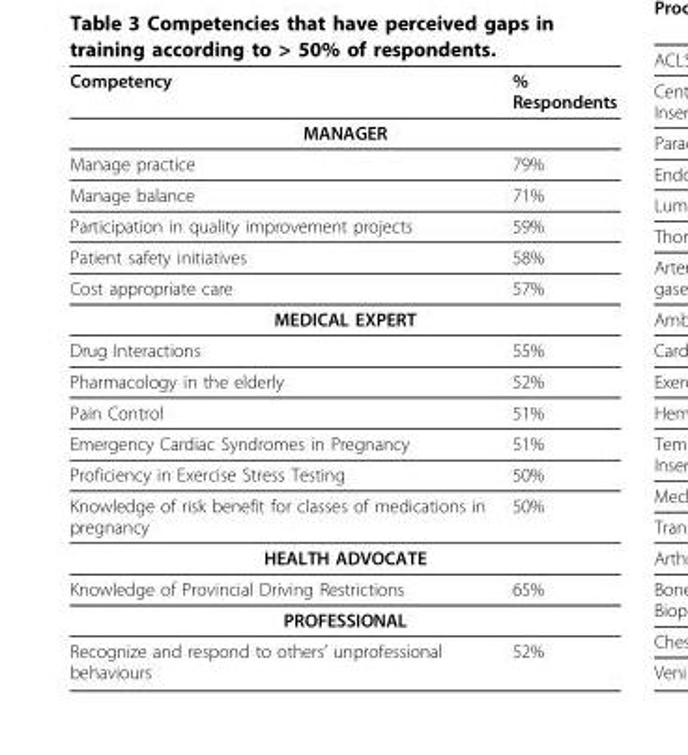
<table><thead><tr><td>Competency</td><td>% Respondents</td></tr></thead><tbody><tr><td colspan="2">MANAGER</td></tr><tr><td>Manage practice</td><td>79%</td></tr><tr><td>Manage balance</td><td>71%</td></tr><tr><td>Participation in quality improvement projects</td><td>59%</td></tr><tr><td>Patient safety initiatives</td><td>58%</td></tr><tr><td>Cost appropriate care</td><td>57%</td></tr><tr><td colspan="2">MEDICAL EXPERT</td></tr><tr><td>Drug Interactions</td><td>55%</td></tr><tr><td>Pharmacology in the elderly</td><td>52%</td></tr><tr><td>Pain Control</td><td>51%</td></tr><tr><td>Emergency Cardiac Syndromes in Pregnancy</td><td>51%</td></tr><tr><td>Proficiency in Exercise Stress Testing</td><td>50%</td></tr><tr><td>Knowledge of risk benefit for classes of medications in pregnancy</td><td>50%</td></tr><tr><td colspan="2">HEALTH ADVOCATE</td></tr><tr><td>Knowledge of Provincial Driving Restrictions</td><td>65%</td></tr><tr><td colspan="2">PROFESSIONAL</td></tr><tr><td>Recognize and respond to others’ unprofessional behaviours</td><td>52%</td></tr></tbody></table>